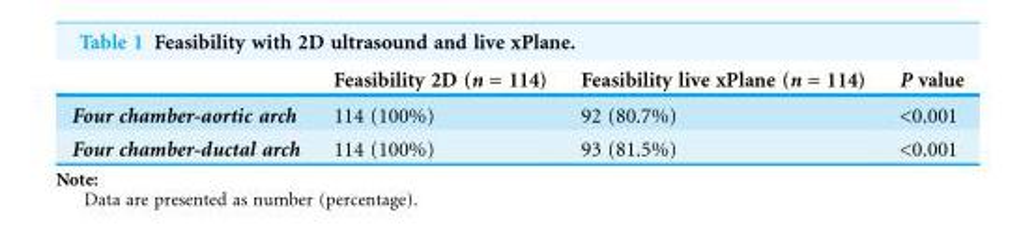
<table><thead><tr><td></td><td>Feasibility 2D (n = 114)</td><td>Feasibility live xPlane (n = 114)</td><td>P value</td></tr></thead><tbody><tr><td>Four chamber-aortic arch</td><td>114 (100%)</td><td>92 (80.7%)</td><td>&lt;0.001</td></tr><tr><td>Four chamber-ductal arch</td><td>114 (100%)</td><td>93 (81.5%)</td><td>&lt;0.001</td></tr></tbody></table>